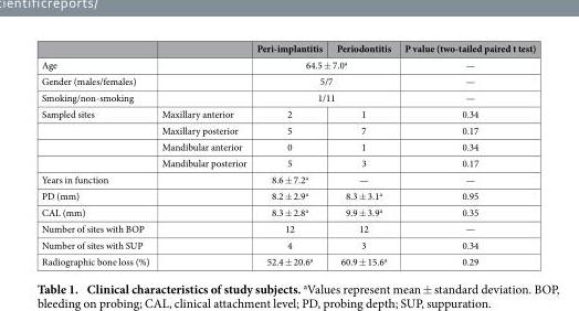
<table><thead><tr><td></td><td></td><td>Peri-implantitis</td><td>Periodontitis</td><td>P value (two-tailed paired t test)</td></tr></thead><tbody><tr><td>Age</td><td></td><td colspan="2">64.5 ± 7.0<sup>a</sup></td><td>—</td></tr><tr><td>Gender (males/females)</td><td></td><td colspan="2">5/7</td><td>—</td></tr><tr><td>Smoking/non-smoking</td><td></td><td colspan="2">1/11</td><td>—</td></tr><tr><td rowspan="4">Sampled sites</td><td>Maxillary anterior</td><td>2</td><td>1</td><td>0.34</td></tr><tr><td>Maxillary posterior</td><td>5</td><td>7</td><td>0.17</td></tr><tr><td>Mandibular anterior</td><td>0</td><td>1</td><td>0.34</td></tr><tr><td>Mandibular posterior</td><td>5</td><td>3</td><td>0.17</td></tr><tr><td>Years in function</td><td></td><td>8.6 ± 7.2<sup>a</sup></td><td>—</td><td>—</td></tr><tr><td>PD (mm)</td><td></td><td>8.2 ± 2.9<sup>a</sup></td><td>8.3 ± 3.1<sup>a</sup></td><td>0.95</td></tr><tr><td>CAL (mm)</td><td></td><td>8.3 ± 2.8<sup>a</sup></td><td>9.9 ± 3.9<sup>a</sup></td><td>0.35</td></tr><tr><td>Number of sites with BOP</td><td></td><td>12</td><td>12</td><td>—</td></tr><tr><td>Number of sites with SUP</td><td></td><td>4</td><td>3</td><td>0.34</td></tr><tr><td>Radiographic bone loss (%)</td><td></td><td>52.4 ± 20.6<sup>a</sup></td><td>60.9 ± 15.6<sup>a</sup></td><td>0.29</td></tr></tbody></table>